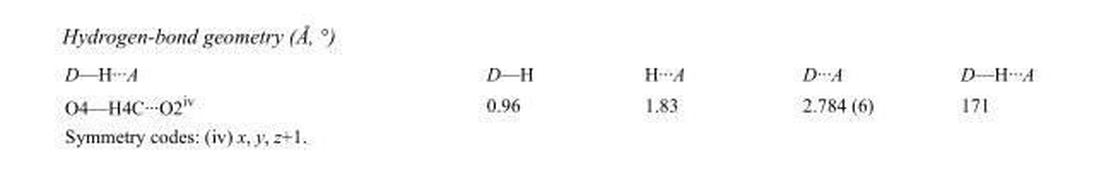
<table><tbody><tr><td>D—H···A</td><td>D—H</td><td>H···A</td><td>D···A</td><td>D—H···A</td></tr><tr><td>O4—H4C···O2<sup>iv</sup></td><td>0.96</td><td>1.83</td><td>2.784 (6)</td><td>171</td></tr></tbody></table>